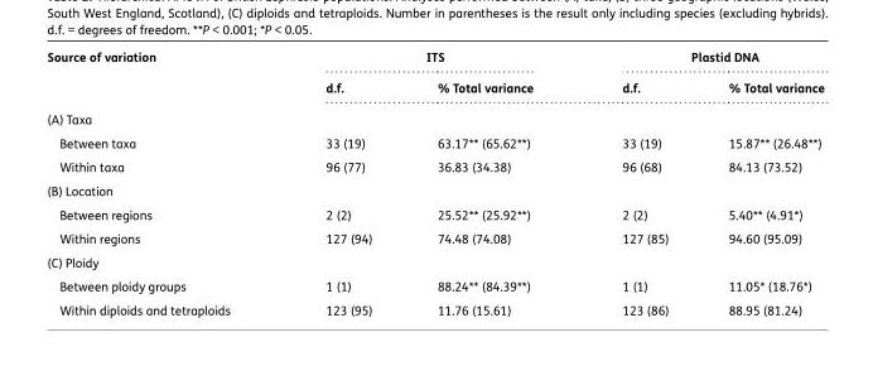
<table><thead><tr><td rowspan="2">Source of variation</td><td colspan="2">ITS</td><td colspan="2">Plastid DNA</td></tr><tr><td>d.f.</td><td>% Total variance</td><td>d.f.</td><td>% Total variance</td></tr></thead><tbody><tr><td colspan="5">(A) Taxa</td></tr><tr><td>Between taxa</td><td>33 (19)</td><td>63.17** (65.62**)</td><td>33 (19)</td><td>15.87** (26.48**)</td></tr><tr><td>Within taxa</td><td>96 (77)</td><td>36.83 (34.38)</td><td>96 (68)</td><td>84.13 (73.52)</td></tr><tr><td colspan="5">(B) Location</td></tr><tr><td>Between regions</td><td>2 (2)</td><td>25.52** (25.92**)</td><td>2 (2)</td><td>5.40** (4.91*)</td></tr><tr><td>Within regions</td><td>127 (94)</td><td>74.48 (74.08)</td><td>127 (85)</td><td>94.60 (95.09)</td></tr><tr><td colspan="5">(C) Ploidy</td></tr><tr><td>Between ploidy groups</td><td>1 (1)</td><td>88.24** (84.39**)</td><td>1 (1)</td><td>11.05* (18.76*)</td></tr><tr><td>Within diploids and tetraploids</td><td>123 (95)</td><td>11.76 (15.61)</td><td>123 (86)</td><td>88.95 (81.24)</td></tr></tbody></table>